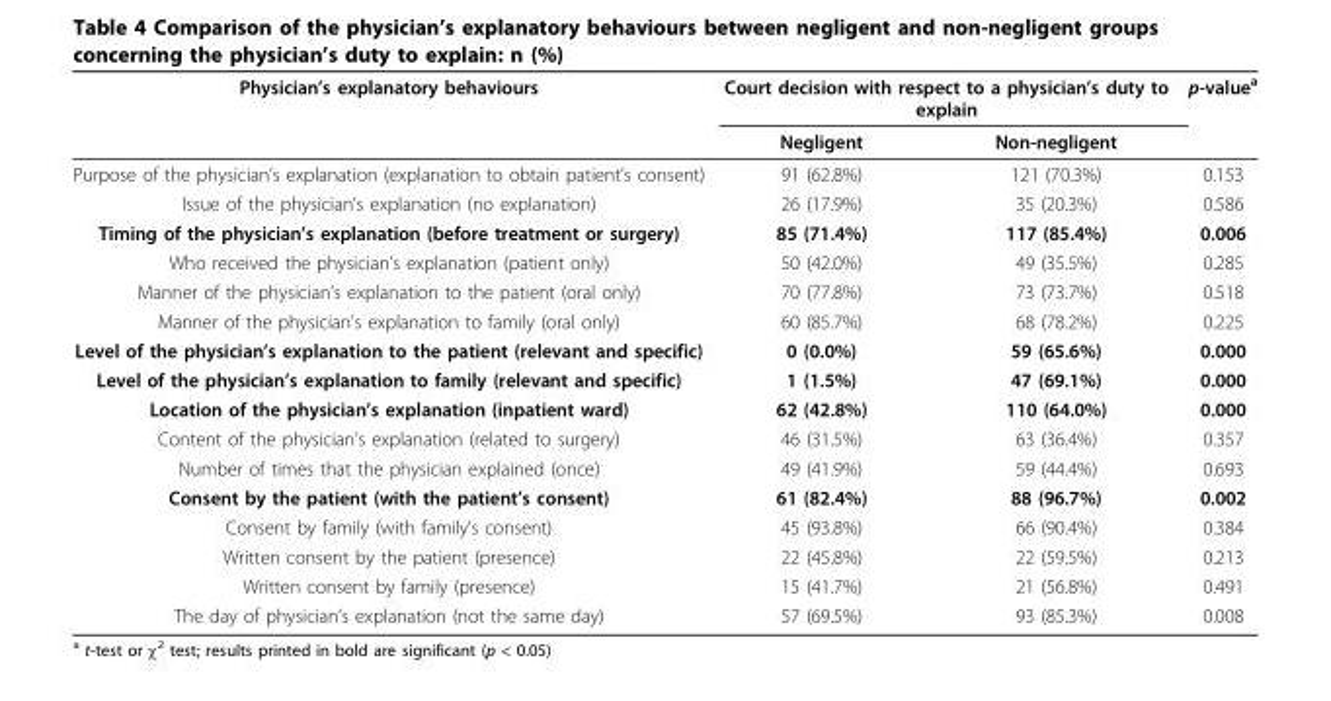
<table><thead><tr><td rowspan="2">Physician’s explanatory behaviours</td><td colspan="2">Court decision with respect to a physician’s duty to explain</td><td rowspan="2">p-value<sup>a</sup></td></tr><tr><td>Negligent</td><td>Non-negligent</td></tr></thead><tbody><tr><td>Purpose of the physician’s explanation (explanation to obtain patient’s consent)</td><td>91 (62.8%)</td><td>121 (70.3%)</td><td>0.153</td></tr><tr><td>Issue of the physician’s explanation (no explanation)</td><td>26 (17.9%)</td><td>35 (20.3%)</td><td>0.586</td></tr><tr><td>Timing of the physician’s explanation (before treatment or surgery)</td><td>85 (71.4%)</td><td>117 (85.4%)</td><td>0.006</td></tr><tr><td>Who received the physician’s explanation (patient only)</td><td>50 (42.0%)</td><td>49 (35.5%)</td><td>0.285</td></tr><tr><td>Manner of the physician’s explanation to the patient (oral only)</td><td>70 (77.8%)</td><td>73 (73.7%)</td><td>0.518</td></tr><tr><td>Manner of the physician’s explanation to family (oral only)</td><td>60 (85.7%)</td><td>68 (78.2%)</td><td>0.225</td></tr><tr><td>Level of the physician’s explanation to the patient (relevant and specific)</td><td>0 (0.0%)</td><td>59 (65.6%)</td><td>0.000</td></tr><tr><td>Level of the physician’s explanation to family (relevant and specific)</td><td>1 (1.5%)</td><td>47 (69.1%)</td><td>0.000</td></tr><tr><td>Location of the physician’s explanation (inpatient ward)</td><td>62 (42.8%)</td><td>110 (64.0%)</td><td>0.000</td></tr><tr><td>Content of the physician’s explanation (related to surgery)</td><td>46 (31.5%)</td><td>63 (36.4%)</td><td>0.357</td></tr><tr><td>Number of times that the physician explained (once)</td><td>49 (41.9%)</td><td>59 (44.4%)</td><td>0.693</td></tr><tr><td>Consent by the patient (with the patient’s consent)</td><td>61 (82.4%)</td><td>88 (96.7%)</td><td>0.002</td></tr><tr><td>Consent by family (with family’s consent)</td><td>45 (93.8%)</td><td>66 (90.4%)</td><td>0.384</td></tr><tr><td>Written consent by the patient (presence)</td><td>22 (45.8%)</td><td>22 (59.5%)</td><td>0.213</td></tr><tr><td>Written consent by family (presence)</td><td>15 (41.7%)</td><td>21 (56.8%)</td><td>0.491</td></tr><tr><td>The day of physician’s explanation (not the same day)</td><td>57 (69.5%)</td><td>93 (85.3%)</td><td>0.008</td></tr></tbody></table>